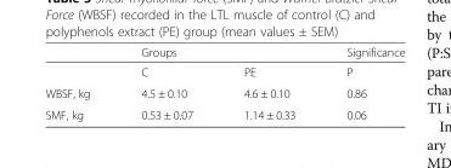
<table><thead><tr><td rowspan="2"></td><td colspan="2">Groups</td><td rowspan="2">Significance P</td></tr><tr><td>C</td><td>PE</td></tr></thead><tbody><tr><td>WBSF, kg</td><td>4.5 ± 0.10</td><td>4.6 ± 0.10</td><td>0.86</td></tr><tr><td>SMF, kg</td><td>0.53 ± 0.07</td><td>1.14 ± 0.33</td><td>0.06</td></tr></tbody></table>